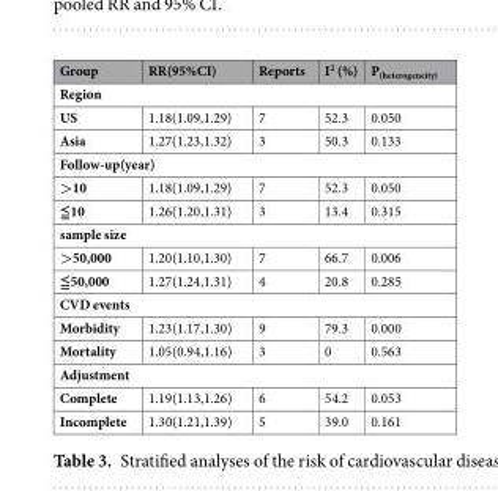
<table><thead><tr><td>Group</td><td>RR(95%CI)</td><td>Reports</td><td>I<sup>2</sup> (%)</td><td>P<sub>(heterogeneity)</sub></td></tr></thead><tbody><tr><td colspan="5">Region</td></tr><tr><td>US</td><td>1.18(1.09,1.29)</td><td>7</td><td>52.3</td><td>0.050</td></tr><tr><td>Asia</td><td>1.27(1.23,1.32)</td><td>3</td><td>50.3</td><td>0.133</td></tr><tr><td colspan="5">Follow-up(year)</td></tr><tr><td>&gt;10</td><td>1.18(1.09,1.29)</td><td>7</td><td>52.3</td><td>0.050</td></tr><tr><td>≦10</td><td>1.26(1.20,1.31)</td><td>3</td><td>13.4</td><td>0.315</td></tr><tr><td colspan="5">sample size</td></tr><tr><td>&gt;50,000</td><td>1.20(1.10,1.30)</td><td>7</td><td>66.7</td><td>0.006</td></tr><tr><td>≦50,000</td><td>1.27(1.24,1.31)</td><td>4</td><td>20.8</td><td>0.285</td></tr><tr><td colspan="5">CVD events</td></tr><tr><td>Morbidity</td><td>1.23(1.17,1.30)</td><td>9</td><td>79.3</td><td>0.000</td></tr><tr><td>Mortality</td><td>1.05(0.94,1.16)</td><td>3</td><td>0</td><td>0.563</td></tr><tr><td colspan="5">Adjustment</td></tr><tr><td>Complete</td><td>1.19(1.13,1.26)</td><td>6</td><td>54.2</td><td>0.053</td></tr><tr><td>Incomplete</td><td>1.30(1.21,1.39)</td><td>5</td><td>39.0</td><td>0.161</td></tr></tbody></table>